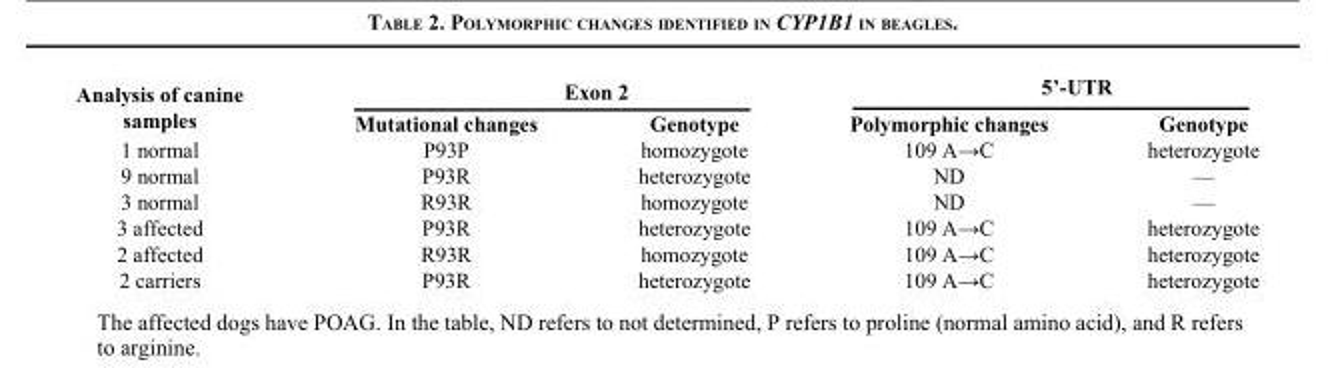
<table><thead><tr><td rowspan="2">Analysis of canine samples</td><td colspan="2">Exon 2</td><td colspan="2">5’-UTR</td></tr><tr><td>Mutational changes</td><td>Genotype</td><td>Polymorphic changes</td><td>Genotype</td></tr></thead><tbody><tr><td>1 normal</td><td>P93P</td><td>homozygote</td><td>109 A→C</td><td>heterozygote</td></tr><tr><td>9 normal</td><td>P93R</td><td>heterozygote</td><td>ND</td><td>—</td></tr><tr><td>3 normal</td><td>R93R</td><td>homozygote</td><td>ND</td><td>—</td></tr><tr><td>3 affected</td><td>P93R</td><td>heterozygote</td><td>109 A→C</td><td>heterozygote</td></tr><tr><td>2 affected</td><td>R93R</td><td>homozygote</td><td>109 A→C</td><td>heterozygote</td></tr><tr><td>2 carriers</td><td>P93R</td><td>heterozygote</td><td>109 A→C</td><td>heterozygote</td></tr></tbody></table>